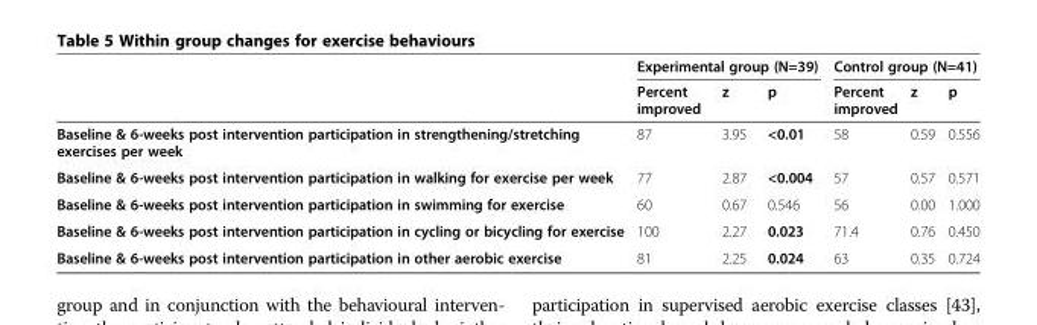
<table><thead><tr><td rowspan="2"></td><td colspan="3">Experimental group (N=39)</td><td colspan="3">Control group (N=41)</td></tr><tr><td>Percent improved</td><td>z</td><td>p</td><td>Percent improved</td><td>z</td><td>p</td></tr></thead><tbody><tr><td>Baseline &amp; 6-weeks post intervention participation in strengthening/stretching exercises per week</td><td>87</td><td>3.95</td><td>&lt;0.01</td><td>58</td><td>0.59</td><td>0.556</td></tr><tr><td>Baseline &amp; 6-weeks post intervention participation in walking for exercise per week</td><td>77</td><td>2.87</td><td>&lt;0.004</td><td>57</td><td>0.57</td><td>0.571</td></tr><tr><td>Baseline &amp; 6-weeks post intervention participation in swimming for exercise</td><td>60</td><td>0.67</td><td>0.546</td><td>56</td><td>0.00</td><td>1.000</td></tr><tr><td>Baseline &amp; 6-weeks post intervention participation in cycling or bicycling for exercise</td><td>100</td><td>2.27</td><td>0.023</td><td>71.4</td><td>0.76</td><td>0.450</td></tr><tr><td>Baseline &amp; 6-weeks post intervention participation in other aerobic exercise</td><td>81</td><td>2.25</td><td>0.024</td><td>63</td><td>0.35</td><td>0.724</td></tr></tbody></table>